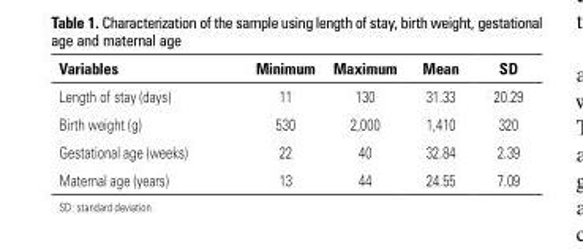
<table><thead><tr><td>Variables</td><td>Minimum</td><td>Maximum</td><td>Mean</td><td>SD</td></tr></thead><tbody><tr><td>Length of stay (days)</td><td>11</td><td>130</td><td>31.33</td><td>20.29</td></tr><tr><td>Birth weight (g)</td><td>530</td><td>2,000</td><td>1,410</td><td>320</td></tr><tr><td>Gestational age (weeks)</td><td>22</td><td>40</td><td>32.84</td><td>2.39</td></tr><tr><td>Maternal age (years)</td><td>13</td><td>44</td><td>24.55</td><td>7.09</td></tr></tbody></table>